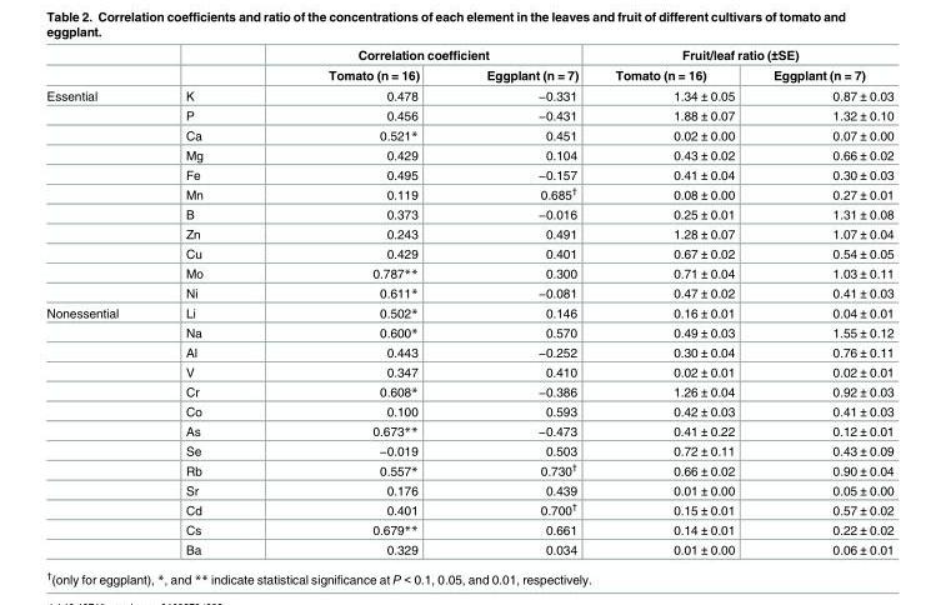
<table><thead><tr><td rowspan="2"></td><td rowspan="2"></td><td colspan="2">Correlation coefficient</td><td colspan="2">Fruit/leaf ratio (±SE)</td></tr><tr><td>Tomato (n = 16)</td><td>Eggplant (n = 7)</td><td>Tomato (n = 16)</td><td>Eggplant (n = 7)</td></tr></thead><tbody><tr><td rowspan="11">Essential</td><td>K</td><td>0.478</td><td>−0.331</td><td>1.34 ± 0.05</td><td>0.87 ± 0.03</td></tr><tr><td>P</td><td>0.456</td><td>−0.431</td><td>1.88 ± 0.07</td><td>1.32 ± 0.10</td></tr><tr><td>Ca</td><td>0.521*</td><td>0.451</td><td>0.02 ± 0.00</td><td>0.07 ± 0.00</td></tr><tr><td>Mg</td><td>0.429</td><td>0.104</td><td>0.43 ± 0.02</td><td>0.66 ± 0.02</td></tr><tr><td>Fe</td><td>0.495</td><td>−0.157</td><td>0.41 ± 0.04</td><td>0.30 ± 0.03</td></tr><tr><td>Mn</td><td>0.119</td><td>0.685<sup>†</sup></td><td>0.08 ± 0.00</td><td>0.27 ± 0.01</td></tr><tr><td>B</td><td>0.373</td><td>−0.016</td><td>0.25 ± 0.01</td><td>1.31 ± 0.08</td></tr><tr><td>Zn</td><td>0.243</td><td>0.491</td><td>1.28 ± 0.07</td><td>1.07 ± 0.04</td></tr><tr><td>Cu</td><td>0.429</td><td>0.401</td><td>0.67 ± 0.02</td><td>0.54 ± 0.05</td></tr><tr><td>Mo</td><td>0.787**</td><td>0.300</td><td>0.71 ± 0.04</td><td>1.03 ± 0.11</td></tr><tr><td>Ni</td><td>0.611*</td><td>−0.081</td><td>0.47 ± 0.02</td><td>0.41 ± 0.03</td></tr><tr><td rowspan="13">Nonessential</td><td>Li</td><td>0.502*</td><td>0.146</td><td>0.16 ± 0.01</td><td>0.04 ± 0.01</td></tr><tr><td>Na</td><td>0.600*</td><td>0.570</td><td>0.49 ± 0.03</td><td>1.55 ± 0.12</td></tr><tr><td>Al</td><td>0.443</td><td>−0.252</td><td>0.30 ± 0.04</td><td>0.76 ± 0.11</td></tr><tr><td>V</td><td>0.347</td><td>0.410</td><td>0.02 ± 0.01</td><td>0.02 ± 0.01</td></tr><tr><td>Cr</td><td>0.608*</td><td>−0.386</td><td>1.26 ± 0.04</td><td>0.92 ± 0.03</td></tr><tr><td>Co</td><td>0.100</td><td>0.593</td><td>0.42 ± 0.03</td><td>0.41 ± 0.03</td></tr><tr><td>As</td><td>0.673**</td><td>−0.473</td><td>0.41 ± 0.22</td><td>0.12 ± 0.01</td></tr><tr><td>Se</td><td>−0.019</td><td>0.503</td><td>0.72 ± 0.11</td><td>0.43 ± 0.09</td></tr><tr><td>Rb</td><td>0.557*</td><td>0.730<sup>†</sup></td><td>0.66 ± 0.02</td><td>0.90 ± 0.04</td></tr><tr><td>Sr</td><td>0.176</td><td>0.439</td><td>0.01 ± 0.00</td><td>0.05 ± 0.00</td></tr><tr><td>Cd</td><td>0.401</td><td>0.700<sup>†</sup></td><td>0.15 ± 0.01</td><td>0.57 ± 0.02</td></tr><tr><td>Cs</td><td>0.679**</td><td>0.661</td><td>0.14 ± 0.01</td><td>0.22 ± 0.02</td></tr><tr><td>Ba</td><td>0.329</td><td>0.034</td><td>0.01 ± 0.00</td><td>0.06 ± 0.01</td></tr></tbody></table>